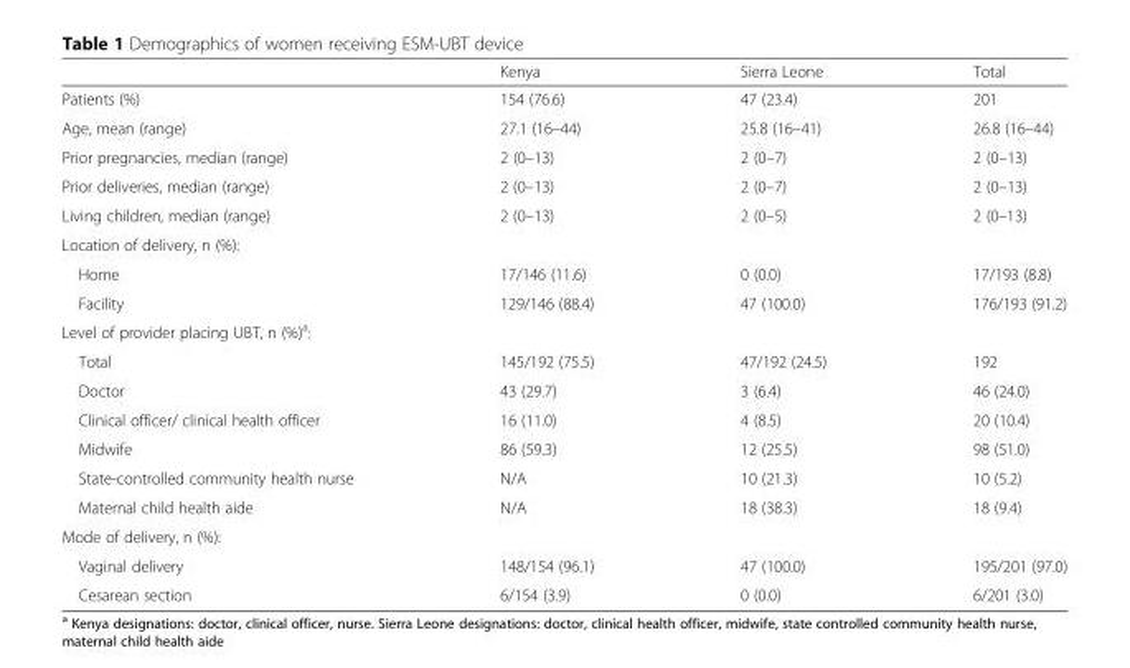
<table><thead><tr><td></td><td>Kenya</td><td>Sierra Leone</td><td>Total</td></tr></thead><tbody><tr><td>Patients (%)</td><td>154 (76.6)</td><td>47 (23.4)</td><td>201</td></tr><tr><td>Age, mean (range)</td><td>27.1 (16–44)</td><td>25.8 (16–41)</td><td>26.8 (16–44)</td></tr><tr><td>Prior pregnancies, median (range)</td><td>2 (0–13)</td><td>2 (0–7)</td><td>2 (0–13)</td></tr><tr><td>Prior deliveries, median (range)</td><td>2 (0–13)</td><td>2 (0–7)</td><td>2 (0–13)</td></tr><tr><td>Living children, median (range)</td><td>2 (0–13)</td><td>2 (0–5)</td><td>2 (0–13)</td></tr><tr><td colspan="4">Location of delivery, n (%):</td></tr><tr><td>Home</td><td>17/146 (11.6)</td><td>0 (0.0)</td><td>17/193 (8.8)</td></tr><tr><td>Facility</td><td>129/146 (88.4)</td><td>47 (100.0)</td><td>176/193 (91.2)</td></tr><tr><td colspan="4">Level of provider placing UBT, n (%)<sup>a</sup>:</td></tr><tr><td>Total</td><td>145/192 (75.5)</td><td>47/192 (24.5)</td><td>192</td></tr><tr><td>Doctor</td><td>43 (29.7)</td><td>3 (6.4)</td><td>46 (24.0)</td></tr><tr><td>Clinical officer/ clinical health officer</td><td>16 (11.0)</td><td>4 (8.5)</td><td>20 (10.4)</td></tr><tr><td>Midwife</td><td>86 (59.3)</td><td>12 (25.5)</td><td>98 (51.0)</td></tr><tr><td>State-controlled community health nurse</td><td>N/A</td><td>10 (21.3)</td><td>10 (5.2)</td></tr><tr><td>Maternal child health aide</td><td>N/A</td><td>18 (38.3)</td><td>18 (9.4)</td></tr><tr><td colspan="4">Mode of delivery, n (%):</td></tr><tr><td>Vaginal delivery</td><td>148/154 (96.1)</td><td>47 (100.0)</td><td>195/201 (97.0)</td></tr><tr><td>Cesarean section</td><td>6/154 (3.9)</td><td>0 (0.0)</td><td>6/201 (3.0)</td></tr></tbody></table>